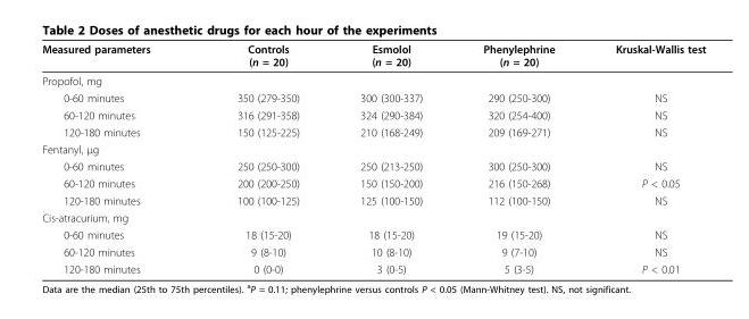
<table><thead><tr><td>Measured parameters</td><td>Controls (n = 20)</td><td>Esmolol (n = 20)</td><td>Phenylephrine (n = 20)</td><td>Kruskal-Wallis test</td></tr></thead><tbody><tr><td colspan="5">Propofol, mg</td></tr><tr><td>0-60 minutes</td><td>350 (279-350)</td><td>300 (300-337)</td><td>290 (250-300)</td><td>NS</td></tr><tr><td>60-120 minutes</td><td>316 (291-358)</td><td>324 (290-384)</td><td>320 (254-400)</td><td>NS</td></tr><tr><td>120-180 minutes</td><td>150 (125-225)</td><td>210 (168-249)</td><td>209 (169-271)</td><td>NS</td></tr><tr><td colspan="5">Fentanyl, μg</td></tr><tr><td>0-60 minutes</td><td>250 (250-300)</td><td>250 (213-250)</td><td>300 (250-300)</td><td>NS</td></tr><tr><td>60-120 minutes</td><td>200 (200-250)</td><td>150 (150-200)</td><td>216 (150-268)</td><td>P &lt; 0.05</td></tr><tr><td>120-180 minutes</td><td>100 (100-125)</td><td>125 (100-150)</td><td>112 (100-150)</td><td>NS</td></tr><tr><td colspan="5">Cis-atracurium, mg</td></tr><tr><td>0-60 minutes</td><td>18 (15-20)</td><td>18 (15-20)</td><td>19 (15-20)</td><td>NS</td></tr><tr><td>60-120 minutes</td><td>9 (8-10)</td><td>10 (8-10)</td><td>9 (7-10)</td><td>NS</td></tr><tr><td>120-180 minutes</td><td>0 (0-0)</td><td>3 (0-5)</td><td>5 (3-5)</td><td>P &lt; 0.01</td></tr></tbody></table>